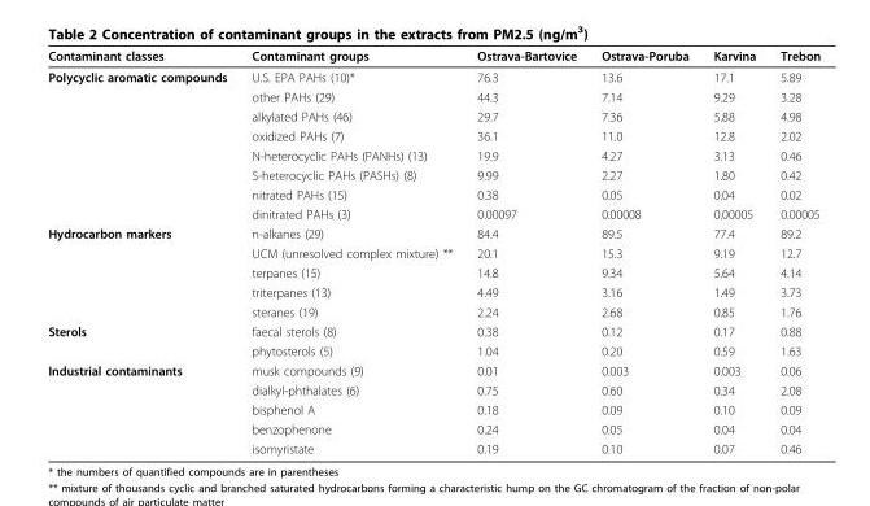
<table><thead><tr><td>Contaminant classes</td><td>Contaminant groups</td><td>Ostrava-Bartovice</td><td>Ostrava-Poruba</td><td>Karvina</td><td>Trebon</td></tr></thead><tbody><tr><td rowspan="8">Polycyclic aromatic compounds</td><td>U.S. EPA PAHs (10)*</td><td>76.3</td><td>13.6</td><td>17.1</td><td>5.89</td></tr><tr><td>other PAHs (29)</td><td>44.3</td><td>7.14</td><td>9.29</td><td>3.28</td></tr><tr><td>alkylated PAHs (46)</td><td>29.7</td><td>7.36</td><td>5.88</td><td>4.98</td></tr><tr><td>oxidized PAHs (7)</td><td>36.1</td><td>11.0</td><td>12.8</td><td>2.02</td></tr><tr><td>N-heterocyclic PAHs (PANHs) (13)</td><td>19.9</td><td>4.27</td><td>3.13</td><td>0.46</td></tr><tr><td>S-heterocyclic PAHs (PASHs) (8)</td><td>9.99</td><td>2.27</td><td>1.80</td><td>0.42</td></tr><tr><td>nitrated PAHs (15)</td><td>0.38</td><td>0.05</td><td>0.04</td><td>0.02</td></tr><tr><td>dinitrated PAHs (3)</td><td>0.00097</td><td>0.00008</td><td>0.00005</td><td>0.00005</td></tr><tr><td rowspan="5">Hydrocarbon markers</td><td>n-alkanes (29)</td><td>84.4</td><td>89.5</td><td>77.4</td><td>89.2</td></tr><tr><td>UCM (unresolved complex mixture) **</td><td>20.1</td><td>15.3</td><td>9.19</td><td>12.7</td></tr><tr><td>terpanes (15)</td><td>14.8</td><td>9.34</td><td>5.64</td><td>4.14</td></tr><tr><td>triterpanes (13)</td><td>4.49</td><td>3.16</td><td>1.49</td><td>3.73</td></tr><tr><td>steranes (19)</td><td>2.24</td><td>2.68</td><td>0.85</td><td>1.76</td></tr><tr><td rowspan="2">Sterols</td><td>faecal sterols (8)</td><td>0.38</td><td>0.12</td><td>0.17</td><td>0.88</td></tr><tr><td>phytosterols (5)</td><td>1.04</td><td>0.20</td><td>0.59</td><td>1.63</td></tr><tr><td rowspan="5">Industrial contaminants</td><td>musk compounds (9)</td><td>0.01</td><td>0.003</td><td>0.003</td><td>0.06</td></tr><tr><td>dialkyl-phthalates (6)</td><td>0.75</td><td>0.60</td><td>0.34</td><td>2.08</td></tr><tr><td>bisphenol A</td><td>0.18</td><td>0.09</td><td>0.10</td><td>0.09</td></tr><tr><td>benzophenone</td><td>0.24</td><td>0.05</td><td>0.04</td><td>0.04</td></tr><tr><td>isomyristate</td><td>0.19</td><td>0.10</td><td>0.07</td><td>0.46</td></tr></tbody></table>